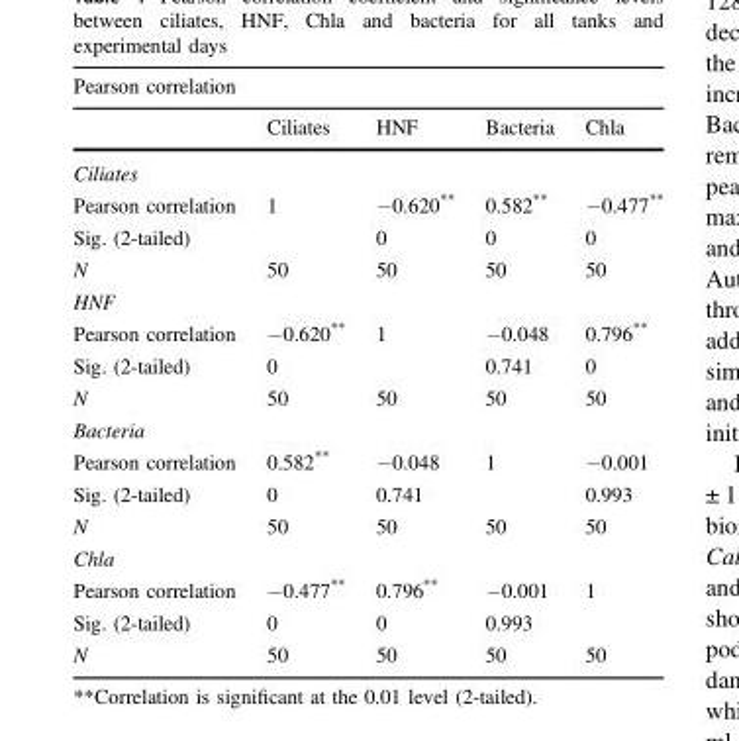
<table><thead><tr><td colspan="5">Pearson correlation</td></tr><tr><td></td><td>Ciliates</td><td>HNF</td><td>Bacteria</td><td>Chla</td></tr></thead><tbody><tr><td colspan="5">Ciliates</td></tr><tr><td>Pearson correlation</td><td>1</td><td>−0.620**</td><td>0.582**</td><td>−0.477**</td></tr><tr><td>Sig. (2-tailed)</td><td></td><td>0</td><td>0</td><td>0</td></tr><tr><td>N</td><td>50</td><td>50</td><td>50</td><td>50</td></tr><tr><td colspan="5">HNF</td></tr><tr><td>Pearson correlation</td><td>−0.620**</td><td>1</td><td>−0.048</td><td>0.796**</td></tr><tr><td>Sig. (2-tailed)</td><td>0</td><td></td><td>0.741</td><td>0</td></tr><tr><td>N</td><td>50</td><td>50</td><td>50</td><td>50</td></tr><tr><td colspan="5">Bacteria</td></tr><tr><td>Pearson correlation</td><td>0.582**</td><td>−0.048</td><td>1</td><td>−0.001</td></tr><tr><td>Sig. (2-tailed)</td><td>0</td><td>0.741</td><td></td><td>0.993</td></tr><tr><td>N</td><td>50</td><td>50</td><td>50</td><td>50</td></tr><tr><td colspan="5">Chla</td></tr><tr><td>Pearson correlation</td><td>−0.477**</td><td>0.796**</td><td>−0.001</td><td>1</td></tr><tr><td>Sig. (2-tailed)</td><td>0</td><td>0</td><td>0.993</td><td></td></tr><tr><td>N</td><td>50</td><td>50</td><td>50</td><td>50</td></tr></tbody></table>